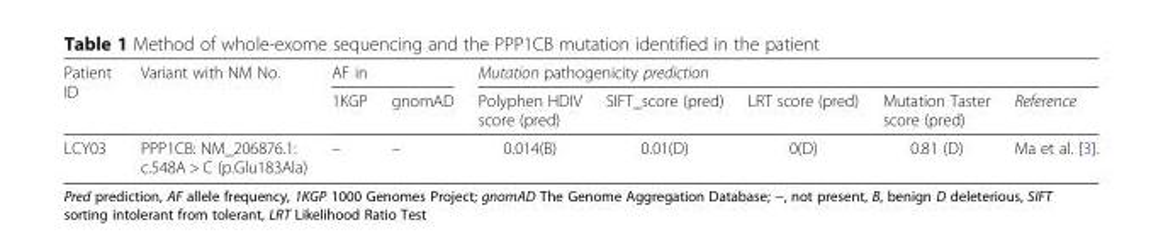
<table><thead><tr><td rowspan="2">Patient ID</td><td rowspan="2">Variant with NM No.</td><td colspan="2">AF in</td><td colspan="5">Mutation pathogenicity prediction</td></tr><tr><td>1KGP</td><td>gnomAD</td><td>Polyphen HDIV score (pred)</td><td>SIFT_score (pred)</td><td>LRT score (pred)</td><td>Mutation Taster score (pred)</td><td>Reference</td></tr></thead><tbody><tr><td>LCY03</td><td>PPP1CB: NM_206876.1: c.548A &gt; C (p.Glu183Ala)</td><td>–</td><td>–</td><td>0.014(B)</td><td>0.01(D)</td><td>0(D)</td><td>0.81 (D)</td><td>Ma et al. [3].</td></tr></tbody></table>